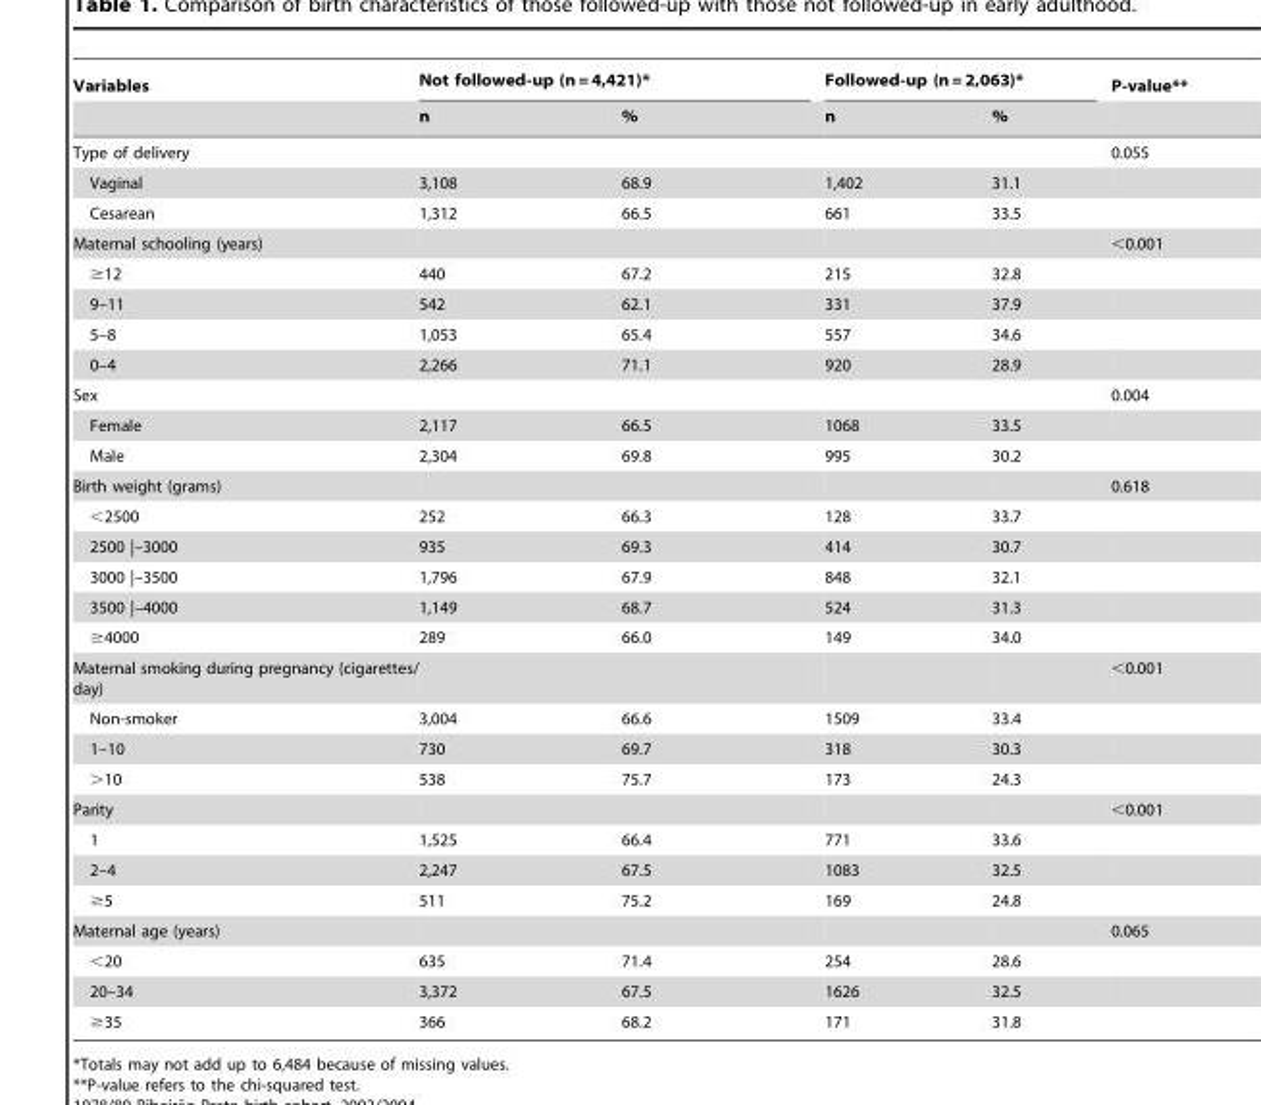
<table><thead><tr><td rowspan="2">Variables</td><td colspan="2">Not followed-up (n = 4,421)*</td><td colspan="2">Followed-up (n = 2,063)*</td><td rowspan="2">P-value**</td></tr><tr><td>n</td><td>%</td><td>n</td><td>%</td></tr></thead><tbody><tr><td>Type of delivery</td><td></td><td></td><td></td><td></td><td>0.055</td></tr><tr><td>Vaginal</td><td>3,108</td><td>68.9</td><td>1,402</td><td>31.1</td><td></td></tr><tr><td>Cesarean</td><td>1,312</td><td>66.5</td><td>661</td><td>33.5</td><td></td></tr><tr><td>Maternal schooling (years)</td><td></td><td></td><td></td><td></td><td>&lt;0.001</td></tr><tr><td>≥12</td><td>440</td><td>67.2</td><td>215</td><td>32.8</td><td></td></tr><tr><td>9–11</td><td>542</td><td>62.1</td><td>331</td><td>37.9</td><td></td></tr><tr><td>5–8</td><td>1,053</td><td>65.4</td><td>557</td><td>34.6</td><td></td></tr><tr><td>0–4</td><td>2,266</td><td>71.1</td><td>920</td><td>28.9</td><td></td></tr><tr><td>Sex</td><td></td><td></td><td></td><td></td><td>0.004</td></tr><tr><td>Female</td><td>2,117</td><td>66.5</td><td>1068</td><td>33.5</td><td></td></tr><tr><td>Male</td><td>2,304</td><td>69.8</td><td>995</td><td>30.2</td><td></td></tr><tr><td>Birth weight (grams)</td><td></td><td></td><td></td><td></td><td>0.618</td></tr><tr><td>&lt;2500</td><td>252</td><td>66.3</td><td>128</td><td>33.7</td><td></td></tr><tr><td>2500 |–3000</td><td>935</td><td>69.3</td><td>414</td><td>30.7</td><td></td></tr><tr><td>3000 |–3500</td><td>1,796</td><td>67.9</td><td>848</td><td>32.1</td><td></td></tr><tr><td>3500 |–4000</td><td>1,149</td><td>68.7</td><td>524</td><td>31.3</td><td></td></tr><tr><td>≥4000</td><td>289</td><td>66.0</td><td>149</td><td>34.0</td><td></td></tr><tr><td>Maternal smoking during pregnancy (cigarettes/ day)</td><td></td><td></td><td></td><td></td><td>&lt;0.001</td></tr><tr><td>Non-smoker</td><td>3,004</td><td>66.6</td><td>1509</td><td>33.4</td><td></td></tr><tr><td>1–10</td><td>730</td><td>69.7</td><td>318</td><td>30.3</td><td></td></tr><tr><td>&gt;10</td><td>538</td><td>75.7</td><td>173</td><td>24.3</td><td></td></tr><tr><td>Parity</td><td></td><td></td><td></td><td></td><td>&lt;0.001</td></tr><tr><td>1</td><td>1,525</td><td>66.4</td><td>771</td><td>33.6</td><td></td></tr><tr><td>2–4</td><td>2,247</td><td>67.5</td><td>1083</td><td>32.5</td><td></td></tr><tr><td>≥5</td><td>511</td><td>75.2</td><td>169</td><td>24.8</td><td></td></tr><tr><td>Maternal age (years)</td><td></td><td></td><td></td><td></td><td>0.065</td></tr><tr><td>&lt;20</td><td>635</td><td>71.4</td><td>254</td><td>28.6</td><td></td></tr><tr><td>20–34</td><td>3,372</td><td>67.5</td><td>1626</td><td>32.5</td><td></td></tr><tr><td>≥35</td><td>366</td><td>68.2</td><td>171</td><td>31.8</td><td></td></tr></tbody></table>